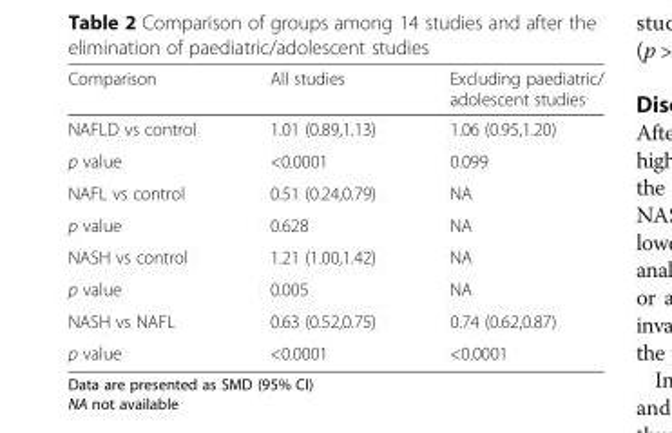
<table><thead><tr><td>Comparison</td><td>All studies</td><td>Excluding paediatric/ adolescent studies</td></tr></thead><tbody><tr><td>NAFLD vs control</td><td>1.01 (0.89,1.13)</td><td>1.06 (0.95,1.20)</td></tr><tr><td>p value</td><td>&lt;0.0001</td><td>0.099</td></tr><tr><td>NAFL vs control</td><td>0.51 (0.24,0.79)</td><td>NA</td></tr><tr><td>p value</td><td>0.628</td><td>NA</td></tr><tr><td>NASH vs control</td><td>1.21 (1.00,1.42)</td><td>NA</td></tr><tr><td>p value</td><td>0.005</td><td>NA</td></tr><tr><td>NASH vs NAFL</td><td>0.63 (0.52,0.75)</td><td>0.74 (0.62,0.87)</td></tr><tr><td>p value</td><td>&lt;0.0001</td><td>&lt;0.0001</td></tr></tbody></table>